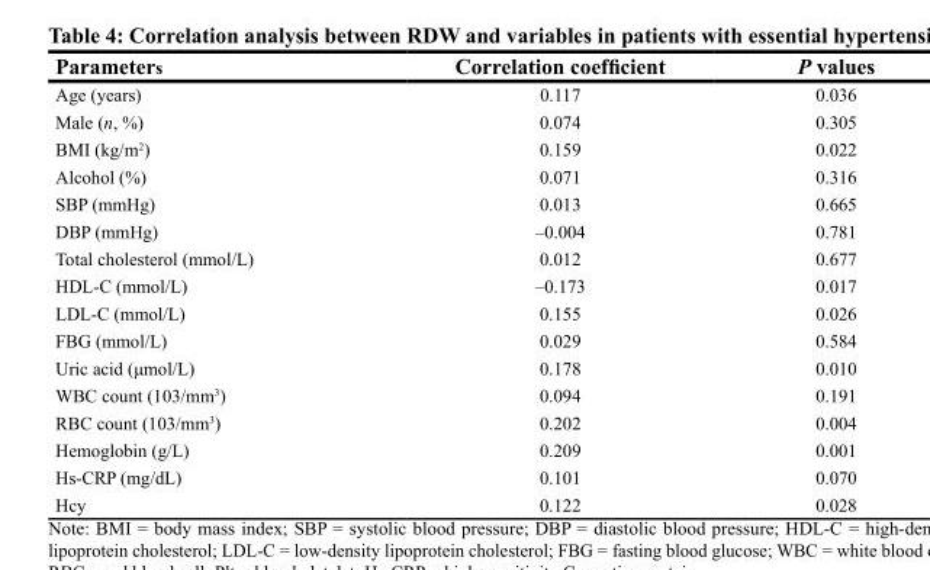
<table><thead><tr><td>Parameters</td><td>Correlation coefficient</td><td>P values</td></tr></thead><tbody><tr><td>Age (years)</td><td>0.117</td><td>0.036</td></tr><tr><td>Male (n, %)</td><td>0.074</td><td>0.305</td></tr><tr><td>BMI (kg/m<sup>2</sup>)</td><td>0.159</td><td>0.022</td></tr><tr><td>Alcohol (%)</td><td>0.071</td><td>0.316</td></tr><tr><td>SBP (mmHg)</td><td>0.013</td><td>0.665</td></tr><tr><td>DBP (mmHg)</td><td>–0.004</td><td>0.781</td></tr><tr><td>Total cholesterol (mmol/L)</td><td>0.012</td><td>0.677</td></tr><tr><td>HDL-C (mmol/L)</td><td>–0.173</td><td>0.017</td></tr><tr><td>LDL-C (mmol/L)</td><td>0.155</td><td>0.026</td></tr><tr><td>FBG (mmol/L)</td><td>0.029</td><td>0.584</td></tr><tr><td>Uric acid (μmol/L)</td><td>0.178</td><td>0.010</td></tr><tr><td>WBC count (103/mm<sup>3</sup>)</td><td>0.094</td><td>0.191</td></tr><tr><td>RBC count (103/mm<sup>3</sup>)</td><td>0.202</td><td>0.004</td></tr><tr><td>Hemoglobin (g/L)</td><td>0.209</td><td>0.001</td></tr><tr><td>Hs-CRP (mg/dL)</td><td>0.101</td><td>0.070</td></tr><tr><td>Hcy</td><td>0.122</td><td>0.028</td></tr></tbody></table>